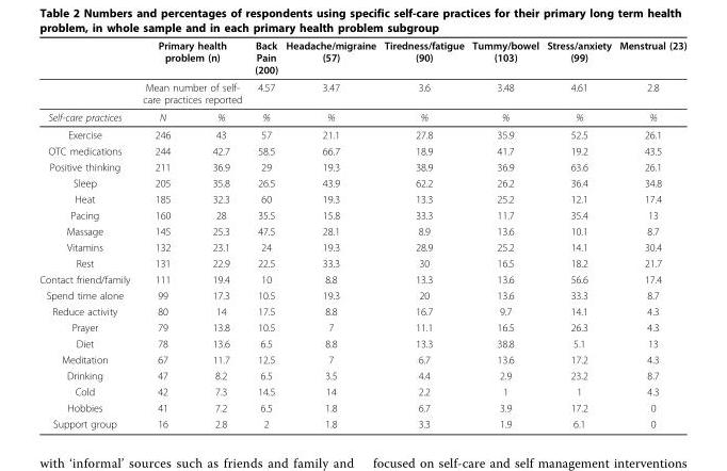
<table><thead><tr><td rowspan="3">Self-care practices</td><td rowspan="2" colspan="2">Primary health problem (n) Mean number of self- care practices reported</td><td rowspan="3">Back Pain (200) 4.57 %</td><td rowspan="3">Headache/migraine (57) 3.47 %</td><td rowspan="3">Tiredness/fatigue (90) 3.6 %</td><td rowspan="3">Tummy/bowel (103) 3.48 %</td><td rowspan="3">Stress/anxiety (99) 4.61 %</td><td rowspan="3">Menstrual (23) 2.8 %</td></tr><tr></tr><tr><td>N</td><td>%</td></tr></thead><tbody><tr><td>Exercise</td><td>246</td><td>43</td><td>57</td><td>21.1</td><td>27.8</td><td>35.9</td><td>52.5</td><td>26.1</td></tr><tr><td>OTC medications</td><td>244</td><td>42.7</td><td>58.5</td><td>66.7</td><td>18.9</td><td>41.7</td><td>19.2</td><td>43.5</td></tr><tr><td>Positive thinking</td><td>211</td><td>36.9</td><td>29</td><td>19.3</td><td>38.9</td><td>36.9</td><td>63.6</td><td>26.1</td></tr><tr><td>Sleep</td><td>205</td><td>35.8</td><td>26.5</td><td>43.9</td><td>62.2</td><td>26.2</td><td>36.4</td><td>34.8</td></tr><tr><td>Heat</td><td>185</td><td>32.3</td><td>60</td><td>19.3</td><td>13.3</td><td>25.2</td><td>12.1</td><td>17.4</td></tr><tr><td>Pacing</td><td>160</td><td>28</td><td>35.5</td><td>15.8</td><td>33.3</td><td>11.7</td><td>35.4</td><td>13</td></tr><tr><td>Massage</td><td>145</td><td>25.3</td><td>47.5</td><td>28.1</td><td>8.9</td><td>13.6</td><td>10.1</td><td>8.7</td></tr><tr><td>Vitamins</td><td>132</td><td>23.1</td><td>24</td><td>19.3</td><td>28.9</td><td>25.2</td><td>14.1</td><td>30.4</td></tr><tr><td>Rest</td><td>131</td><td>22.9</td><td>22.5</td><td>33.3</td><td>30</td><td>16.5</td><td>18.2</td><td>21.7</td></tr><tr><td>Contact friend/family</td><td>111</td><td>19.4</td><td>10</td><td>8.8</td><td>13.3</td><td>13.6</td><td>56.6</td><td>17.4</td></tr><tr><td>Spend time alone</td><td>99</td><td>17.3</td><td>10.5</td><td>19.3</td><td>20</td><td>13.6</td><td>33.3</td><td>8.7</td></tr><tr><td>Reduce activity</td><td>80</td><td>14</td><td>17.5</td><td>8.8</td><td>16.7</td><td>9.7</td><td>14.1</td><td>4.3</td></tr><tr><td>Prayer</td><td>79</td><td>13.8</td><td>10.5</td><td>7</td><td>11.1</td><td>16.5</td><td>26.3</td><td>4.3</td></tr><tr><td>Diet</td><td>78</td><td>13.6</td><td>6.5</td><td>8.8</td><td>13.3</td><td>38.8</td><td>5.1</td><td>13</td></tr><tr><td>Meditation</td><td>67</td><td>11.7</td><td>12.5</td><td>7</td><td>6.7</td><td>13.6</td><td>17.2</td><td>4.3</td></tr><tr><td>Drinking</td><td>47</td><td>8.2</td><td>6.5</td><td>3.5</td><td>4.4</td><td>2.9</td><td>23.2</td><td>8.7</td></tr><tr><td>Cold</td><td>42</td><td>7.3</td><td>14.5</td><td>14</td><td>2.2</td><td>1</td><td>1</td><td>4.3</td></tr><tr><td>Hobbies</td><td>41</td><td>7.2</td><td>6.5</td><td>1.8</td><td>6.7</td><td>3.9</td><td>17.2</td><td>0</td></tr><tr><td>Support group</td><td>16</td><td>2.8</td><td>2</td><td>1.8</td><td>3.3</td><td>1.9</td><td>6.1</td><td>0</td></tr></tbody></table>